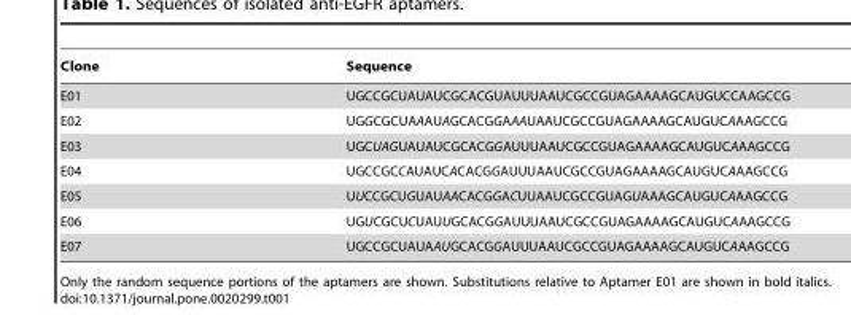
<table><thead><tr><td>Clone</td><td>Sequence</td></tr></thead><tbody><tr><td>E01</td><td>UGCCGCUAUAUCGCACGUAUUUAAUCGCCGUAGAAAAGCAUGUCCAAGCCG</td></tr><tr><td>E02</td><td>UGGCGCUAAAUAGCACGGAAAUAAUCGCCGUAGAAAAGCAUGUCAAAGCCG</td></tr><tr><td>E03</td><td>UGCUAGUAUAUCGCACGGAUUUAAUCGCCGUAGAAAAGCAUGUCAAAGCCG</td></tr><tr><td>E04</td><td>UGCCGCCAUAUCACACGGAUUUAAUCGCCGUAGAAAAGCAUGUCAAAGCCG</td></tr><tr><td>E05</td><td>UUCCGCUGUAUAACACGGACUUAAUCGCCGUAGUAAAGCAUGUCAAAGCCG</td></tr><tr><td>E06</td><td>UGUCGCUCUAUUGCACGGAUUUAAUCGCCGUAGAAAAGCAUGUCAAAGCCG</td></tr><tr><td>E07</td><td>UGCCGCUAUAAUGCACGGAUUUAAUCGCCGUAGAAAAGCAUGUCAAAGCCG</td></tr></tbody></table>